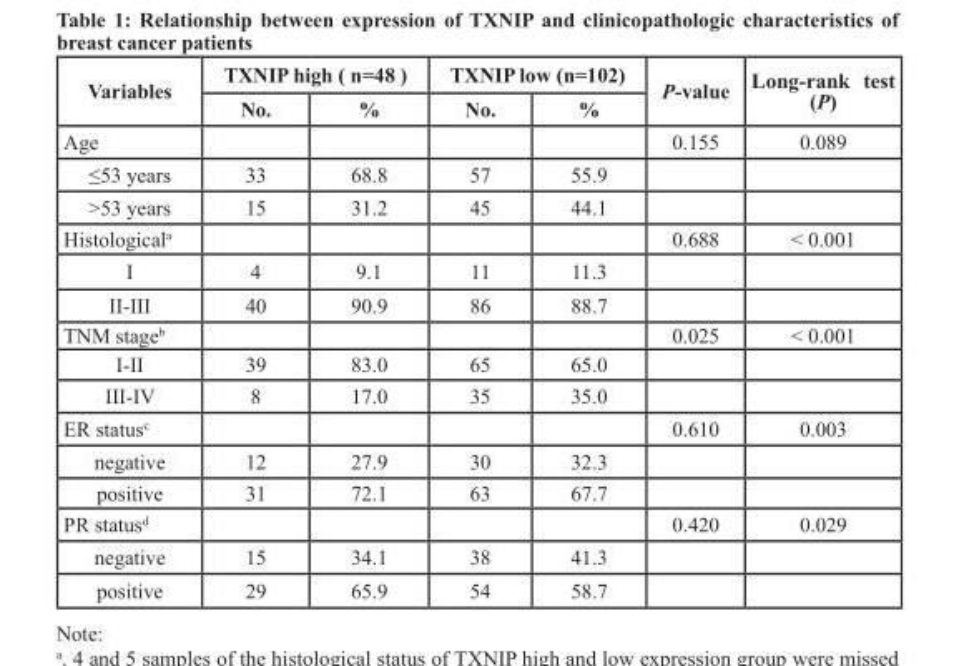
<table><thead><tr><td rowspan="2">Variables</td><td colspan="2">TXNIP high ( n=48 )</td><td colspan="2">TXNIP low (n=102)</td><td rowspan="2">P-value</td><td rowspan="2">Long-rank test (P)</td></tr><tr><td>No.</td><td>%</td><td>No.</td><td>%</td></tr></thead><tbody><tr><td>Age</td><td></td><td></td><td></td><td></td><td>0.155</td><td>0.089</td></tr><tr><td>≤53 years</td><td>33</td><td>68.8</td><td>57</td><td>55.9</td><td></td><td></td></tr><tr><td>&gt;53 years</td><td>15</td><td>31.2</td><td>45</td><td>44.1</td><td></td><td></td></tr><tr><td>Histological<sup>a</sup></td><td></td><td></td><td></td><td></td><td>0.688</td><td>&lt; 0.001</td></tr><tr><td>I</td><td>4</td><td>9.1</td><td>11</td><td>11.3</td><td></td><td></td></tr><tr><td>II-III</td><td>40</td><td>90.9</td><td>86</td><td>88.7</td><td></td><td></td></tr><tr><td>TNM stage<sup>b</sup></td><td></td><td></td><td></td><td></td><td>0.025</td><td>&lt; 0.001</td></tr><tr><td>I-II</td><td>39</td><td>83.0</td><td>65</td><td>65.0</td><td></td><td></td></tr><tr><td>III-IV</td><td>8</td><td>17.0</td><td>35</td><td>35.0</td><td></td><td></td></tr><tr><td>ER status<sup>c</sup></td><td></td><td></td><td></td><td></td><td>0.610</td><td>0.003</td></tr><tr><td>negative</td><td>12</td><td>27.9</td><td>30</td><td>32.3</td><td></td><td></td></tr><tr><td>positive</td><td>31</td><td>72.1</td><td>63</td><td>67.7</td><td></td><td></td></tr><tr><td>PR status<sup>d</sup></td><td></td><td></td><td></td><td></td><td>0.420</td><td>0.029</td></tr><tr><td>negative</td><td>15</td><td>34.1</td><td>38</td><td>41.3</td><td></td><td></td></tr><tr><td>positive</td><td>29</td><td>65.9</td><td>54</td><td>58.7</td><td></td><td></td></tr></tbody></table>